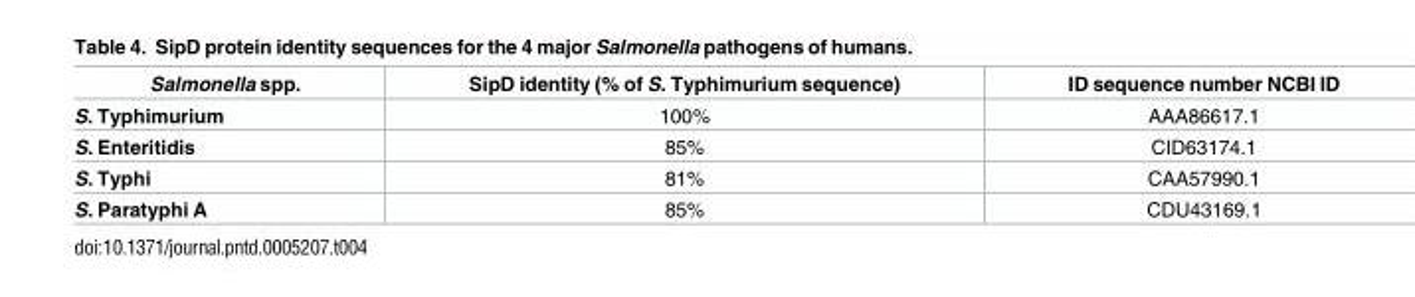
<table><thead><tr><td>Salmonella spp.</td><td>SipD identity (% of S. Typhimurium sequence)</td><td>ID sequence number NCBI ID</td></tr></thead><tbody><tr><td>S. Typhimurium</td><td>100%</td><td>AAA86617.1</td></tr><tr><td>S. Enteritidis</td><td>85%</td><td>CID63174.1</td></tr><tr><td>S. Typhi</td><td>81%</td><td>CAA57990.1</td></tr><tr><td>S. Paratyphi A</td><td>85%</td><td>CDU43169.1</td></tr></tbody></table>